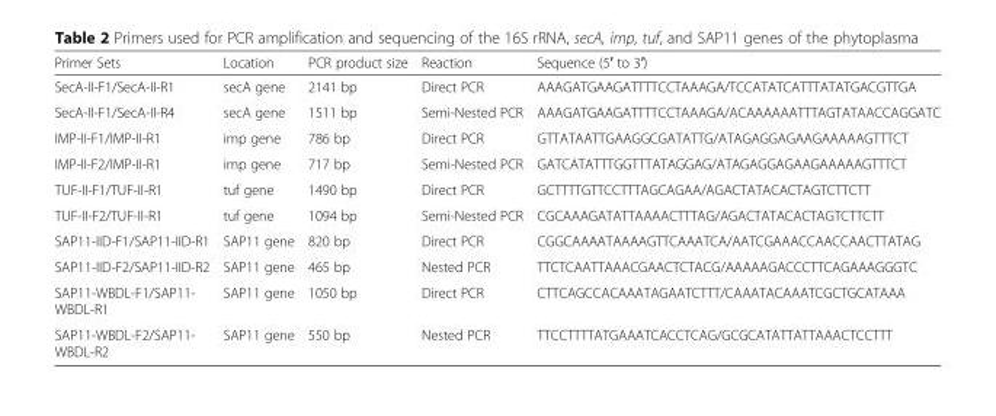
<table><thead><tr><td>Primer Sets</td><td>Location</td><td>PCR product size</td><td>Reaction</td><td>Sequence (5′ to 3′)</td></tr></thead><tbody><tr><td>SecA-II-F1/SecA-II-R1</td><td>secA gene</td><td>2141 bp</td><td>Direct PCR</td><td>AAAGATGAAGATTTTCCTAAAGA/TCCATATCATTTATATGACGTTGA</td></tr><tr><td>SecA-II-F1/SecA-II-R4</td><td>secA gene</td><td>1511 bp</td><td>Semi-Nested PCR</td><td>AAAGATGAAGATTTTCCTAAAGA/ACAAAAAATTTAGTATAACCAGGATC</td></tr><tr><td>IMP-II-F1/IMP-II-R1</td><td>imp gene</td><td>786 bp</td><td>Direct PCR</td><td>GTTATAATTGAAGGCGATATTG/ATAGAGGAGAAGAAAAAGTTTCT</td></tr><tr><td>IMP-II-F2/IMP-II-R1</td><td>imp gene</td><td>717 bp</td><td>Semi-Nested PCR</td><td>GATCATATTTGGTTTATAGGAG/ATAGAGGAGAAGAAAAAGTTTCT</td></tr><tr><td>TUF-II-F1/TUF-II-R1</td><td>tuf gene</td><td>1490 bp</td><td>Direct PCR</td><td>GCTTTTGTTCCTTTAGCAGAA/AGACTATACACTAGTCTTCTT</td></tr><tr><td>TUF-II-F2/TUF-II-R1</td><td>tuf gene</td><td>1094 bp</td><td>Semi-Nested PCR</td><td>CGCAAAGATATTAAAACTTTAG/AGACTATACACTAGTCTTCTT</td></tr><tr><td>SAP11-IID-F1/SAP11-IID-R1</td><td>SAP11 gene</td><td>820 bp</td><td>Direct PCR</td><td>CGGCAAAATAAAAGTTCAAATCA/AATCGAAACCAACCAACTTATAG</td></tr><tr><td>SAP11-IID-F2/SAP11-IID-R2</td><td>SAP11 gene</td><td>465 bp</td><td>Nested PCR</td><td>TTCTCAATTAAACGAACTCTACG/AAAAAGACCCTTCAGAAAGGGTC</td></tr><tr><td>SAP11-WBDL-F1/SAP11- WBDL-R1</td><td>SAP11 gene</td><td>1050 bp</td><td>Direct PCR</td><td>CTTCAGCCACAAATAGAATCTTT/CAAATACAAATCGCTGCATAAA</td></tr><tr><td>SAP11-WBDL-F2/SAP11- WBDL-R2</td><td>SAP11 gene</td><td>550 bp</td><td>Nested PCR</td><td>TTCCTTTTATGAAATCACCTCAG/GCGCATATTATTAAACTCCTTT</td></tr></tbody></table>